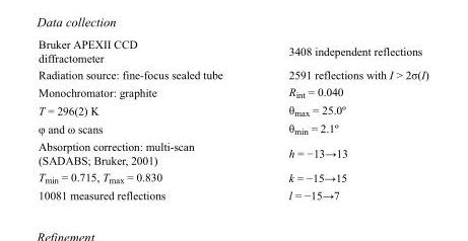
<table><tbody><tr><td>Bruker APEXII CCD diffractometer</td><td>3408 independent reflections</td></tr><tr><td>Radiation source: fine-focus sealed tube</td><td>2591 reflections with I &gt; 2σ(I)</td></tr><tr><td>Monochromator: graphite</td><td>R<sub>int</sub> = 0.040</td></tr><tr><td>T = 296(2) K</td><td>θ<sub>max</sub> = 25.0º</td></tr><tr><td>φ and ω scans</td><td>θ<sub>min</sub> = 2.1º</td></tr><tr><td>Absorption correction: multi-scan (SADABS; Bruker, 2001)</td><td>h = −13→13</td></tr><tr><td>T<sub>min</sub> = 0.715, T<sub>max</sub> = 0.830</td><td>k = −15→15</td></tr><tr><td>10081 measured reflections</td><td>l = −15→7</td></tr></tbody></table>